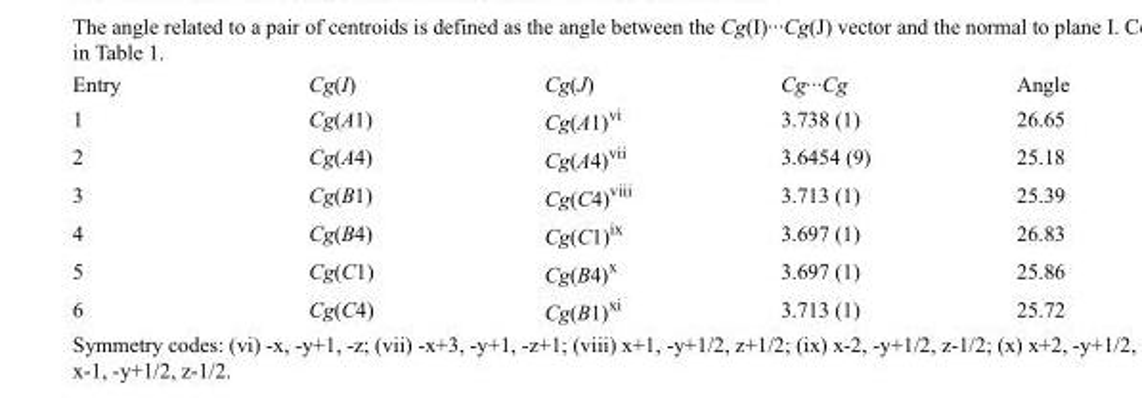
<table><thead><tr><td>Entry</td><td>Cg(I)</td><td>Cg(J)</td><td>Cg···Cg</td><td>Angle</td></tr></thead><tbody><tr><td>1</td><td>Cg(A1)</td><td>Cg(A1)<sup>vi</sup></td><td>3.738 (1)</td><td>26.65</td></tr><tr><td>2</td><td>Cg(A4)</td><td>Cg(A4)<sup>vii</sup></td><td>3.6454 (9)</td><td>25.18</td></tr><tr><td>3</td><td>Cg(B1)</td><td>Cg(C4)<sup>viii</sup></td><td>3.713 (1)</td><td>25.39</td></tr><tr><td>4</td><td>Cg(B4)</td><td>Cg(C1)<sup>ix</sup></td><td>3.697 (1)</td><td>26.83</td></tr><tr><td>5</td><td>Cg(C1)</td><td>Cg(B4)<sup>x</sup></td><td>3.697 (1)</td><td>25.86</td></tr><tr><td>6</td><td>Cg(C4)</td><td>Cg(B1)<sup>xi</sup></td><td>3.713 (1)</td><td>25.72</td></tr></tbody></table>